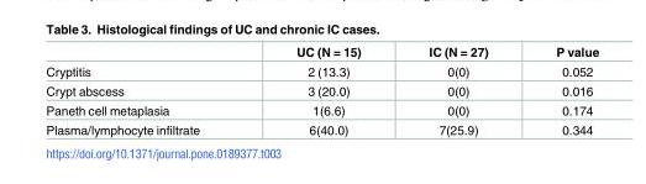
<table><thead><tr><td></td><td>UC (N = 15)</td><td>IC (N = 27)</td><td>P value</td></tr></thead><tbody><tr><td>Cryptitis</td><td>2 (13.3)</td><td>0(0)</td><td>0.052</td></tr><tr><td>Crypt abscess</td><td>3 (20.0)</td><td>0(0)</td><td>0.016</td></tr><tr><td>Paneth cell metaplasia</td><td>1(6.6)</td><td>0(0)</td><td>0.174</td></tr><tr><td>Plasma/lymphocyte infiltrate</td><td>6(40.0)</td><td>7(25.9)</td><td>0.344</td></tr></tbody></table>